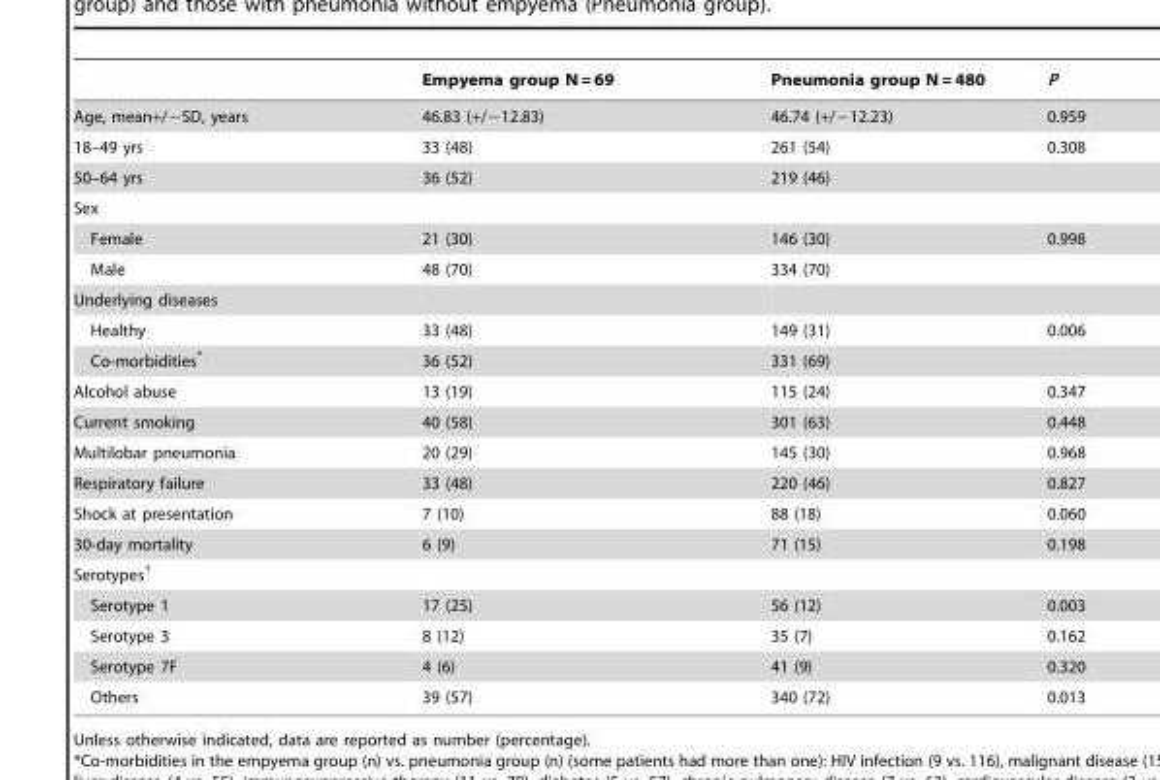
<table><thead><tr><td></td><td>Empyema group N = 69</td><td>Pneumonia group N = 480</td><td>P</td></tr></thead><tbody><tr><td>Age, mean+/−SD, years</td><td>46.83 (+/−12.83)</td><td>46.74 (+/−12.23)</td><td>0.959</td></tr><tr><td>18–49 yrs</td><td>33 (48)</td><td>261 (54)</td><td>0.308</td></tr><tr><td>50–64 yrs</td><td>36 (52)</td><td>219 (46)</td><td></td></tr><tr><td colspan="4">Sex</td></tr><tr><td>Female</td><td>21 (30)</td><td>146 (30)</td><td>0.998</td></tr><tr><td>Male</td><td>48 (70)</td><td>334 (70)</td><td></td></tr><tr><td colspan="4">Underlying diseases</td></tr><tr><td>Healthy</td><td>33 (48)</td><td>149 (31)</td><td>0.006</td></tr><tr><td>Co-morbidities*</td><td>36 (52)</td><td>331 (69)</td><td></td></tr><tr><td>Alcohol abuse</td><td>13 (19)</td><td>115 (24)</td><td>0.347</td></tr><tr><td>Current smoking</td><td>40 (58)</td><td>301 (63)</td><td>0.448</td></tr><tr><td>Multilobar pneumonia</td><td>20 (29)</td><td>145 (30)</td><td>0.968</td></tr><tr><td>Respiratory failure</td><td>33 (48)</td><td>220 (46)</td><td>0.827</td></tr><tr><td>Shock at presentation</td><td>7 (10)</td><td>88 (18)</td><td>0.060</td></tr><tr><td>30-day mortality</td><td>6 (9)</td><td>71 (15)</td><td>0.198</td></tr><tr><td colspan="4">Serotypes†</td></tr><tr><td>Serotype 1</td><td>17 (25)</td><td>56 (12)</td><td>0.003</td></tr><tr><td>Serotype 3</td><td>8 (12)</td><td>35 (7)</td><td>0.162</td></tr><tr><td>Serotype 7F</td><td>4 (6)</td><td>41 (9)</td><td>0.320</td></tr><tr><td>Others</td><td>39 (57)</td><td>340 (72)</td><td>0.013</td></tr></tbody></table>